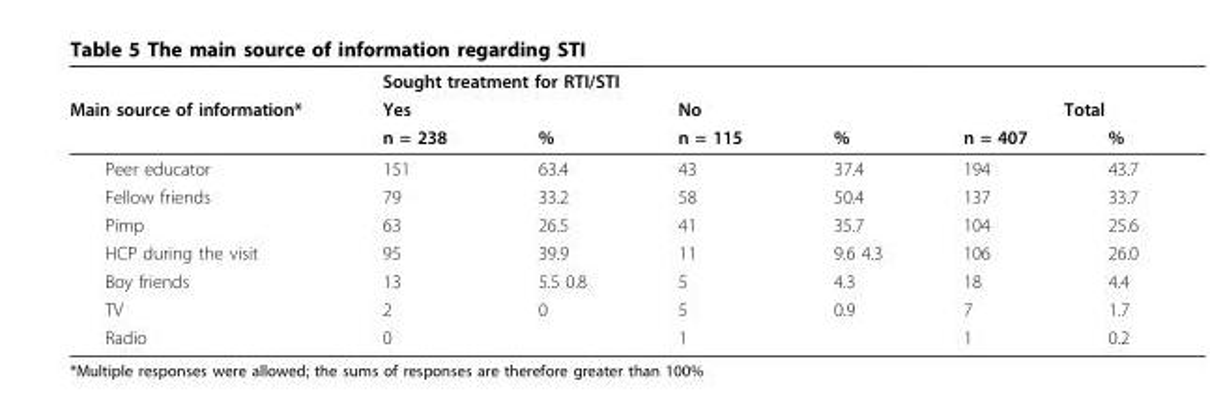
<table><thead><tr><td rowspan="3">Main source of information*</td><td colspan="3">Sought treatment for RTI/STI</td><td rowspan="3">%</td><td></td><td></td></tr><tr><td rowspan="2">Yes n = 238</td><td rowspan="2">%</td><td rowspan="2">No n = 115</td><td colspan="2">Total</td></tr><tr><td>n = 407</td><td>%</td></tr></thead><tbody><tr><td>Peer educator</td><td>151</td><td>63.4</td><td>43</td><td>37.4</td><td>194</td><td>43.7</td></tr><tr><td>Fellow friends</td><td>79</td><td>33.2</td><td>58</td><td>50.4</td><td>137</td><td>33.7</td></tr><tr><td>Pimp</td><td>63</td><td>26.5</td><td>41</td><td>35.7</td><td>104</td><td>25.6</td></tr><tr><td>HCP during the visit</td><td>95</td><td>39.9</td><td>11</td><td>9.6 4.3</td><td>106</td><td>26.0</td></tr><tr><td>Boy friends</td><td>13</td><td>5.5 0.8</td><td>5</td><td>4.3</td><td>18</td><td>4.4</td></tr><tr><td>TV</td><td>2</td><td>0</td><td>5</td><td>0.9</td><td>7</td><td>1.7</td></tr><tr><td>Radio</td><td>0</td><td></td><td>1</td><td></td><td>1</td><td>0.2</td></tr></tbody></table>